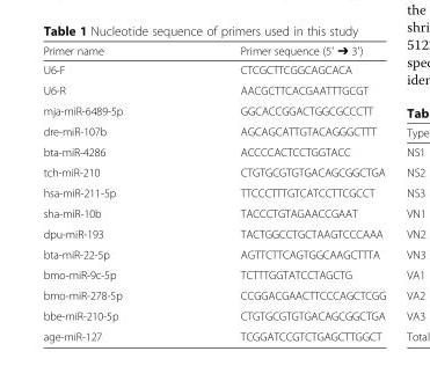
<table><thead><tr><td>Primer name</td><td>Primer sequence (5′ ➔ 3′)</td></tr></thead><tbody><tr><td>U6-F</td><td>CTCGCTTCGGCAGCACA</td></tr><tr><td>U6-R</td><td>AACGCTTCACGAATTTGCGT</td></tr><tr><td>mja-miR-6489-5p</td><td>GGCACCGGACTGGCGCCCTT</td></tr><tr><td>dre-miR-107b</td><td>AGCAGCATTGTACAGGGCTTT</td></tr><tr><td>bta-miR-4286</td><td>ACCCCACTCCTGGTACC</td></tr><tr><td>tch-miR-210</td><td>CTGTGCGTGTGACAGCGGCTGA</td></tr><tr><td>hsa-miR-211-5p</td><td>TTCCCTTTGTCATCCTTCGCCT</td></tr><tr><td>sha-miR-10b</td><td>TACCCTGTAGAACCGAAT</td></tr><tr><td>dpu-miR-193</td><td>TACTGGCCTGCTAAGTCCCAAA</td></tr><tr><td>bta-miR-22-5p</td><td>AGTTCTTCAGTGGCAAGCTTTA</td></tr><tr><td>bmo-miR-9c-5p</td><td>TCTTTGGTATCCTAGCTG</td></tr><tr><td>bmo-miR-278-5p</td><td>CCGGACGAACTTCCCAGCTCGG</td></tr><tr><td>bbe-miR-210-5p</td><td>CTGTGCGTGTGACAGCGGCTGA</td></tr><tr><td>age-miR-127</td><td>TCGGATCCGTCTGAGCTTGGCT</td></tr></tbody></table>